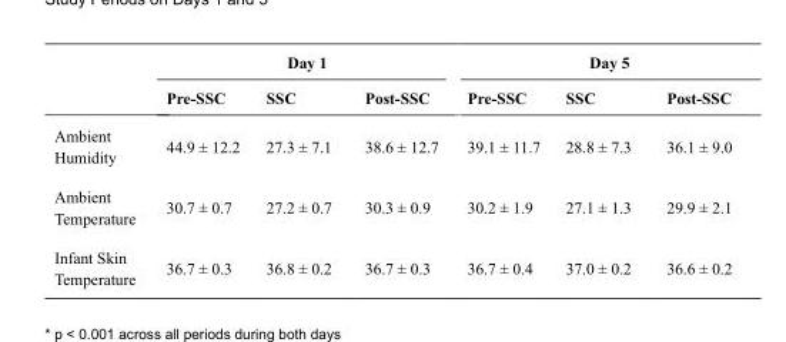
<table><thead><tr><td rowspan="2"></td><td colspan="3">Day 1</td><td colspan="3">Day 5</td></tr><tr><td>Pre-SSC</td><td>SSC</td><td>Post-SSC</td><td>Pre-SSC</td><td>SSC</td><td>Post-SSC</td></tr></thead><tbody><tr><td>Ambient Humidity</td><td>44.9 ± 12.2</td><td>27.3 ± 7.1</td><td>38.6 ± 12.7</td><td>39.1 ± 11.7</td><td>28.8 ± 7.3</td><td>36.1 ± 9.0</td></tr><tr><td>Ambient Temperature</td><td>30.7 ± 0.7</td><td>27.2 ± 0.7</td><td>30.3 ± 0.9</td><td>30.2 ± 1.9</td><td>27.1 ± 1.3</td><td>29.9 ± 2.1</td></tr><tr><td>Infant Skin Temperature</td><td>36.7 ± 0.3</td><td>36.8 ± 0.2</td><td>36.7 ± 0.3</td><td>36.7 ± 0.4</td><td>37.0 ± 0.2</td><td>36.6 ± 0.2</td></tr></tbody></table>